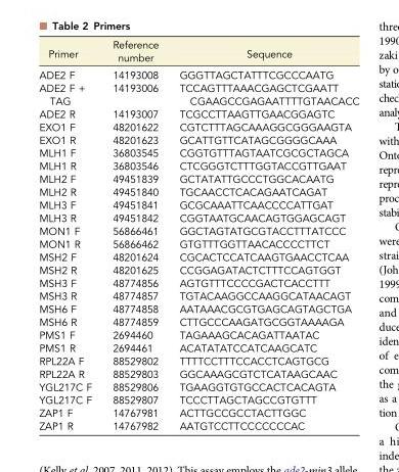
<table><thead><tr><td>Primer</td><td>Reference number</td><td>Sequence</td></tr></thead><tbody><tr><td>ADE2 F</td><td>14193008</td><td>GGGTTAGCTATTTCGCCCAATG</td></tr><tr><td>ADE2 F + TAG</td><td>14193006</td><td>TCCAGTTTAAACGAGCTCGAATT CGAAGCCGAGAATTTTGTAACACC</td></tr><tr><td>ADE2 R</td><td>14193007</td><td>TCGCCTTAAGTTGAACGGAGTC</td></tr><tr><td>EXO1 F</td><td>48201622</td><td>CGTCTTTAGCAAAGGCGGGAAGTA</td></tr><tr><td>EXO1 R</td><td>48201623</td><td>GCATTGTTCATAGCGGGGCAAA</td></tr><tr><td>MLH1 F</td><td>36803545</td><td>CGGTGTTTAGTAATCGCGCTAGCA</td></tr><tr><td>MLH1 R</td><td>36803546</td><td>CTCGGGTCTTTGGTACCGTTGAAT</td></tr><tr><td>MLH2 F</td><td>49451839</td><td>GCTATATTGCCCTGGCACAATG</td></tr><tr><td>MLH2 R</td><td>49451840</td><td>TGCAACCTCACAGAATCAGAT</td></tr><tr><td>MLH3 F</td><td>49451841</td><td>GCGCAAATTCAACCCCATTGAT</td></tr><tr><td>MLH3 R</td><td>49451842</td><td>CGGTAATGCAACAGTGGAGCAGT</td></tr><tr><td>MON1 F</td><td>56866461</td><td>GGCTAGTATGCGTACCTTTATCCC</td></tr><tr><td>MON1 R</td><td>56866462</td><td>GTGTTTGGTTAACACCCCTTCT</td></tr><tr><td>MSH2 F</td><td>48201624</td><td>CGCACTCCATCAAGTGAACCTCAA</td></tr><tr><td>MSH2 R</td><td>48201625</td><td>CCGGAGATACTCTTTCCAGTGGT</td></tr><tr><td>MSH3 F</td><td>48774856</td><td>AGTGTTTCCCCGACTCACCTTT</td></tr><tr><td>MSH3 R</td><td>48774857</td><td>TGTACAAGGCCAAGGCATAACAGT</td></tr><tr><td>MSH6 F</td><td>48774858</td><td>AATAAACGCGTGAGCAGTAGCTGA</td></tr><tr><td>MSH6 R</td><td>48774859</td><td>CTTGCCCAAGATGCGGTAAAAGA</td></tr><tr><td>PMS1 F</td><td>2694460</td><td>TAGAAAGCACAGATTAATAC</td></tr><tr><td>PMS1 R</td><td>2694461</td><td>ACATATATCCATCAAGCATC</td></tr><tr><td>RPL22A F</td><td>88529802</td><td>TTTTCCTTTCCACCTCAGTGCG</td></tr><tr><td>RPL22A R</td><td>88529803</td><td>GGCAAAGCGTCTCATAAGCAAC</td></tr><tr><td>YGL217C F</td><td>88529806</td><td>TGAAGGTGTGCCACTCACAGTA</td></tr><tr><td>YGL217C F</td><td>88529807</td><td>TCCCTTAGCTAGCCGTGTTT</td></tr><tr><td>ZAP1 F</td><td>14767981</td><td>ACTTGCCGCCTACTTGGC</td></tr><tr><td>ZAP1 R</td><td>14767982</td><td>AATGTCCTTCCCCCCCAC</td></tr></tbody></table>